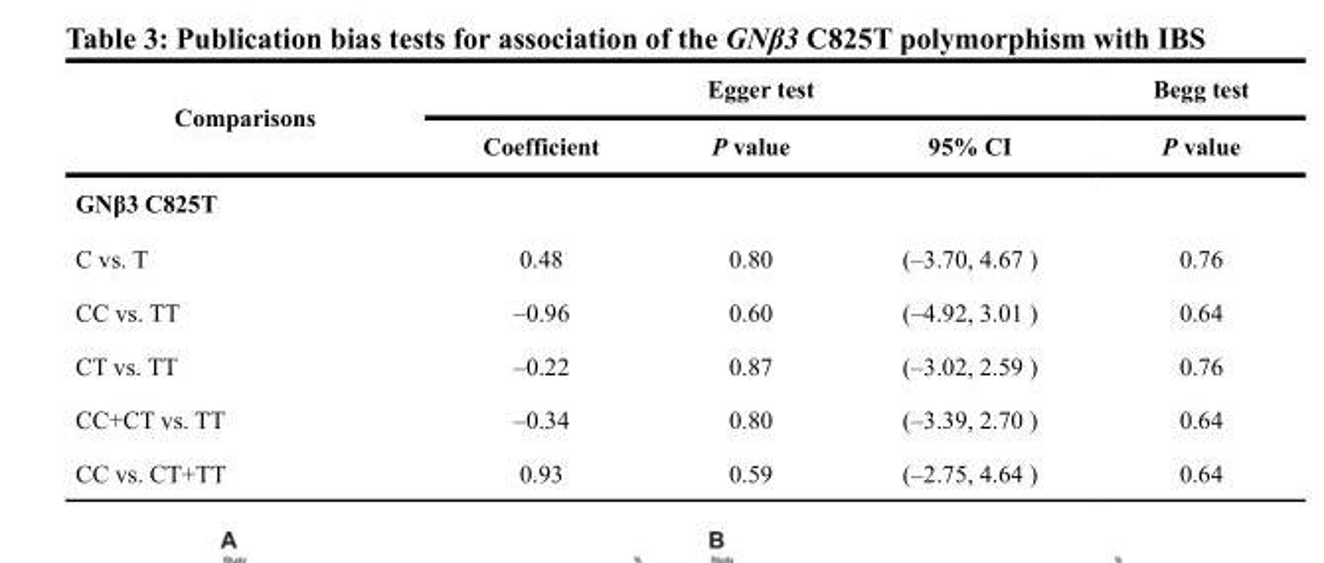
<table><thead><tr><td rowspan="2">Comparisons</td><td colspan="3">Egger test</td><td rowspan="2">Begg test P value</td></tr><tr><td>Coefficient</td><td>P value</td><td>95% CI</td></tr></thead><tbody><tr><td colspan="5">GNβ3 C825T</td></tr><tr><td>C vs. T</td><td>0.48</td><td>0.80</td><td>(–3.70, 4.67 )</td><td>0.76</td></tr><tr><td>CC vs. TT</td><td>–0.96</td><td>0.60</td><td>(–4.92, 3.01 )</td><td>0.64</td></tr><tr><td>CT vs. TT</td><td>–0.22</td><td>0.87</td><td>(–3.02, 2.59 )</td><td>0.76</td></tr><tr><td>CC+CT vs. TT</td><td>–0.34</td><td>0.80</td><td>(–3.39, 2.70 )</td><td>0.64</td></tr><tr><td>CC vs. CT+TT</td><td>0.93</td><td>0.59</td><td>(–2.75, 4.64 )</td><td>0.64</td></tr></tbody></table>